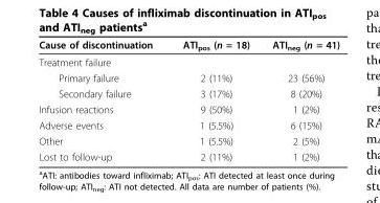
<table><thead><tr><td>Cause of discontinuation</td><td>ATI<sub>pos</sub> (n = 18)</td><td>ATI<sub>neg</sub> (n = 41)</td></tr></thead><tbody><tr><td colspan="3">Treatment failure</td></tr><tr><td>Primary failure</td><td>2 (11%)</td><td>23 (56%)</td></tr><tr><td>Secondary failure</td><td>3 (17%)</td><td>8 (20%)</td></tr><tr><td>Infusion reactions</td><td>9 (50%)</td><td>1 (2%)</td></tr><tr><td>Adverse events</td><td>1 (5.5%)</td><td>6 (15%)</td></tr><tr><td>Other</td><td>1 (5.5%)</td><td>2 (5%)</td></tr><tr><td>Lost to follow-up</td><td>2 (11%)</td><td>1 (2%)</td></tr></tbody></table>